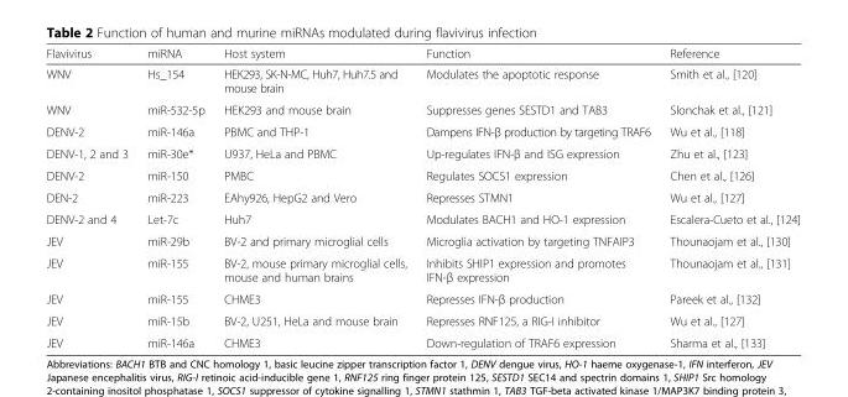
<table><thead><tr><td>Flavivirus</td><td>miRNA</td><td>Host system</td><td>Function</td><td>Reference</td></tr></thead><tbody><tr><td>WNV</td><td>Hs_154</td><td>HEK293, SK-N-MC, Huh7, Huh7.5 and mouse brain</td><td>Modulates the apoptotic response</td><td>Smith et al., [120]</td></tr><tr><td>WNV</td><td>miR-532-5p</td><td>HEK293 and mouse brain</td><td>Suppresses genes SESTD1 and TAB3</td><td>Slonchak et al., [121]</td></tr><tr><td>DENV-2</td><td>miR-146a</td><td>PBMC and THP-1</td><td>Dampens IFN-β production by targeting TRAF6</td><td>Wu et al., [118]</td></tr><tr><td>DENV-1, 2 and 3</td><td>miR-30e*</td><td>U937, HeLa and PBMC</td><td>Up-regulates IFN-β and ISG expression</td><td>Zhu et al., [123]</td></tr><tr><td>DENV-2</td><td>miR-150</td><td>PMBC</td><td>Regulates SOCS1 expression</td><td>Chen et al., [126]</td></tr><tr><td>DEN-2</td><td>miR-223</td><td>EAhy926, HepG2 and Vero</td><td>Represses STMN1</td><td>Wu et al., [127]</td></tr><tr><td>DENV-2 and 4</td><td>Let-7c</td><td>Huh7</td><td>Modulates BACH1 and HO-1 expression</td><td>Escalera-Cueto et al., [124]</td></tr><tr><td>JEV</td><td>miR-29b</td><td>BV-2 and primary microglial cells</td><td>Microglia activation by targeting TNFAIP3</td><td>Thounaojam et al., [130]</td></tr><tr><td>JEV</td><td>miR-155</td><td>BV-2, mouse primary microglial cells, mouse and human brains</td><td>Inhibits SHIP1 expression and promotes IFN-β expression</td><td>Thounaojam et al., [131]</td></tr><tr><td>JEV</td><td>miR-155</td><td>CHME3</td><td>Represses IFN-β production</td><td>Pareek et al., [132]</td></tr><tr><td>JEV</td><td>miR-15b</td><td>BV-2, U251, HeLa and mouse brain</td><td>Represses RNF125, a RIG-I inhibitor</td><td>Wu et al., [127]</td></tr><tr><td>JEV</td><td>miR-146a</td><td>CHME3</td><td>Down-regulation of TRAF6 expression</td><td>Sharma et al., [133]</td></tr></tbody></table>